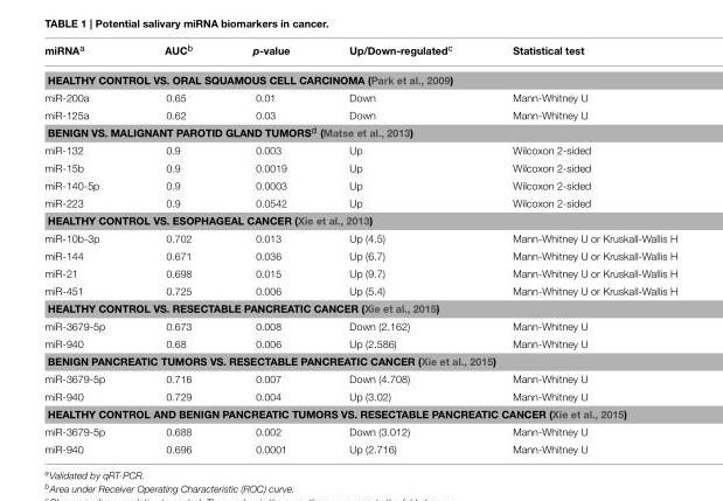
<table><thead><tr><td>miRNA<sup>a</sup></td><td>AUC<sup>b</sup></td><td>p-value</td><td>Up/Down-regulated<sup>c</sup></td><td>Statistical test</td></tr></thead><tbody><tr><td colspan="5">HEALTHY CONTROL VS. ORAL SQUAMOUS CELL CARCINOMA (Park et al., 2009)</td></tr><tr><td>miR-200a</td><td>0.65</td><td>0.01</td><td>Down</td><td>Mann-Whitney U</td></tr><tr><td>miR-125a</td><td>0.62</td><td>0.03</td><td>Down</td><td>Mann-Whitney U</td></tr><tr><td colspan="5">BENIGN VS. MALIGNANT PAROTID GLAND TUMORS<sup>d</sup> (Matse et al., 2013)</td></tr><tr><td>miR-132</td><td>0.9</td><td>0.003</td><td>Up</td><td>Wilcoxon 2-sided</td></tr><tr><td>miR-15b</td><td>0.9</td><td>0.0019</td><td>Up</td><td>Wilcoxon 2-sided</td></tr><tr><td>miR-140-5p</td><td>0.9</td><td>0.0003</td><td>Up</td><td>Wilcoxon 2-sided</td></tr><tr><td>miR-223</td><td>0.9</td><td>0.0542</td><td>Up</td><td>Wilcoxon 2-sided</td></tr><tr><td colspan="5">HEALTHY CONTROL VS. ESOPHAGEAL CANCER (Xie et al., 2013)</td></tr><tr><td>miR-10b-3p</td><td>0.702</td><td>0.013</td><td>Up (4.5)</td><td>Mann-Whitney U or Kruskall-Wallis H</td></tr><tr><td>miR-144</td><td>0.671</td><td>0.036</td><td>Up (6.7)</td><td>Mann-Whitney U or Kruskall-Wallis H</td></tr><tr><td>miR-21</td><td>0.698</td><td>0.015</td><td>Up (9.7)</td><td>Mann-Whitney U or Kruskall-Wallis H</td></tr><tr><td>miR-451</td><td>0.725</td><td>0.006</td><td>Up (5.4)</td><td>Mann-Whitney U or Kruskall-Wallis H</td></tr><tr><td colspan="5">HEALTHY CONTROL VS. RESECTABLE PANCREATIC CANCER (Xie et al., 2015)</td></tr><tr><td>miR-3679-5p</td><td>0.673</td><td>0.008</td><td>Down (2.162)</td><td>Mann-Whitney U</td></tr><tr><td>miR-940</td><td>0.68</td><td>0.006</td><td>Up (2.586)</td><td>Mann-Whitney U</td></tr><tr><td colspan="5">BENIGN PANCREATIC TUMORS VS. RESECTABLE PANCREATIC CANCER (Xie et al., 2015)</td></tr><tr><td>miR-3679-5p</td><td>0.716</td><td>0.007</td><td>Down (4.708)</td><td>Mann-Whitney U</td></tr><tr><td>miR-940</td><td>0.729</td><td>0.004</td><td>Up (3.02)</td><td>Mann-Whitney U</td></tr><tr><td colspan="5">HEALTHY CONTROL AND BENIGN PANCREATIC TUMORS VS. RESECTABLE PANCREATIC CANCER (Xie et al., 2015)</td></tr><tr><td>miR-3679-5p</td><td>0.688</td><td>0.002</td><td>Down (3.012)</td><td>Mann-Whitney U</td></tr><tr><td>miR-940</td><td>0.696</td><td>0.0001</td><td>Up (2.716)</td><td>Mann-Whitney U</td></tr></tbody></table>